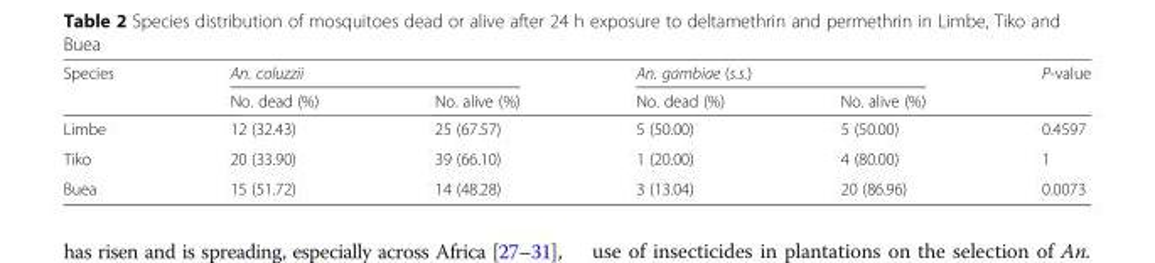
<table><thead><tr><td rowspan="2">Species</td><td colspan="2">An. coluzzii</td><td colspan="2">An. gambiae (s.s.)</td><td rowspan="2">P-value</td></tr><tr><td>No. dead (%)</td><td>No. alive (%)</td><td>No. dead (%)</td><td>No. alive (%)</td></tr></thead><tbody><tr><td>Limbe</td><td>12 (32.43)</td><td>25 (67.57)</td><td>5 (50.00)</td><td>5 (50.00)</td><td>0.4597</td></tr><tr><td>Tiko</td><td>20 (33.90)</td><td>39 (66.10)</td><td>1 (20.00)</td><td>4 (80.00)</td><td>1</td></tr><tr><td>Buea</td><td>15 (51.72)</td><td>14 (48.28)</td><td>3 (13.04)</td><td>20 (86.96)</td><td>0.0073</td></tr></tbody></table>